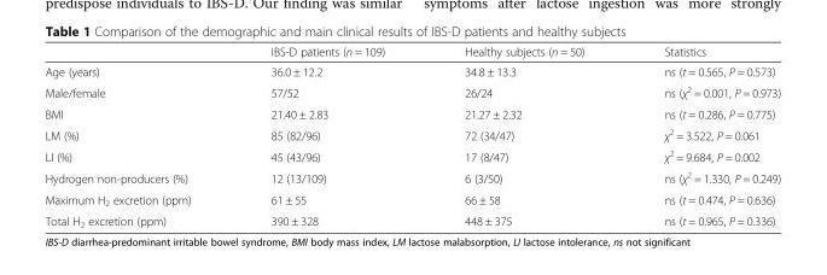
<table><thead><tr><td></td><td>IBS-D patients (n = 109)</td><td>Healthy subjects (n = 50)</td><td>Statistics</td></tr></thead><tbody><tr><td>Age (years)</td><td>36.0 ± 12.2</td><td>34.8 ± 13.3</td><td>ns (t = 0.565, P = 0.573)</td></tr><tr><td>Male/female</td><td>57/52</td><td>26/24</td><td>ns (χ<sup>2</sup> = 0.001, P = 0.973)</td></tr><tr><td>BMI</td><td>21.40 ± 2.83</td><td>21.27 ± 2.32</td><td>ns (t = 0.286, P = 0.775)</td></tr><tr><td>LM (%)</td><td>85 (82/96)</td><td>72 (34/47)</td><td>χ<sup>2</sup> = 3.522, P = 0.061</td></tr><tr><td>LI (%)</td><td>45 (43/96)</td><td>17 (8/47)</td><td>χ<sup>2</sup> = 9.684, P = 0.002</td></tr><tr><td>Hydrogen non-producers (%)</td><td>12 (13/109)</td><td>6 (3/50)</td><td>ns (χ<sup>2</sup> = 1.330, P = 0.249)</td></tr><tr><td>Maximum H<sub>2</sub> excretion (ppm)</td><td>61 ± 55</td><td>66 ± 58</td><td>ns (t = 0.474, P = 0.636)</td></tr><tr><td>Total H<sub>2</sub> excretion (ppm)</td><td>390 ± 328</td><td>448 ± 375</td><td>ns (t = 0.965, P = 0.336)</td></tr></tbody></table>